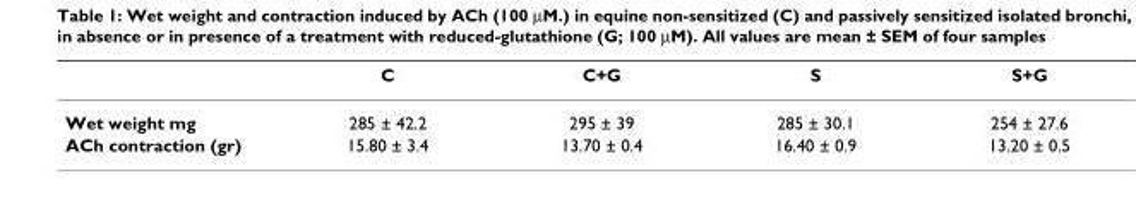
<table><thead><tr><td></td><td>C</td><td>C+G</td><td>S</td><td>S+G</td></tr></thead><tbody><tr><td>Wet weight mg</td><td>285 ± 42.2</td><td>295 ± 39</td><td>285 ± 30.1</td><td>254 ± 27.6</td></tr><tr><td>ACh contraction (gr)</td><td>15.80 ± 3.4</td><td>13.70 ± 0.4</td><td>16.40 ± 0.9</td><td>13.20 ± 0.5</td></tr></tbody></table>